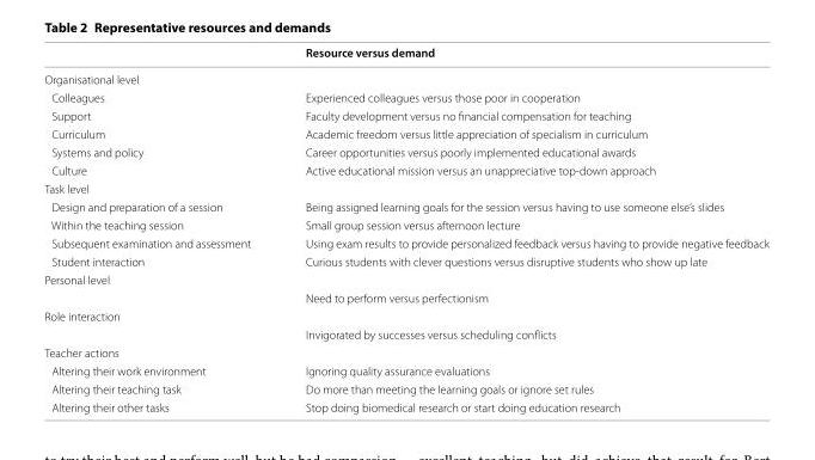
<table><thead><tr><td></td><td>Resource versus demand</td></tr></thead><tbody><tr><td colspan="2">Organisational level</td></tr><tr><td>Colleagues</td><td>Experienced colleagues versus those poor in cooperation</td></tr><tr><td>Support</td><td>Faculty development versus no financial compensation for teaching</td></tr><tr><td>Curriculum</td><td>Academic freedom versus little appreciation of specialism in curriculum</td></tr><tr><td>Systems and policy</td><td>Career opportunities versus poorly implemented educational awards</td></tr><tr><td>Culture</td><td>Active educational mission versus an unappreciative top-down approach</td></tr><tr><td colspan="2">Task level</td></tr><tr><td>Design and preparation of a session</td><td>Being assigned learning goals for the session versus having to use someone else’s slides</td></tr><tr><td>Within the teaching session</td><td>Small group session versus afternoon lecture</td></tr><tr><td>Subsequent examination and assessment</td><td>Using exam results to provide personalized feedback versus having to provide negative feedback</td></tr><tr><td>Student interaction</td><td>Curious students with clever questions versus disruptive students who show up late</td></tr><tr><td colspan="2">Personal level</td></tr><tr><td></td><td>Need to perform versus perfectionism</td></tr><tr><td colspan="2">Role interaction</td></tr><tr><td></td><td>Invigorated by successes versus scheduling conflicts</td></tr><tr><td colspan="2">Teacher actions</td></tr><tr><td>Altering their work environment</td><td>Ignoring quality assurance evaluations</td></tr><tr><td>Altering their teaching task</td><td>Do more than meeting the learning goals or ignore set rules</td></tr><tr><td>Altering their other tasks</td><td>Stop doing biomedical research or start doing education research</td></tr></tbody></table>